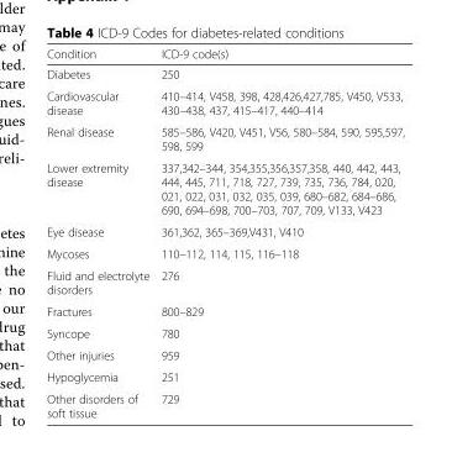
<table><thead><tr><td>Condition</td><td>ICD-9 code(s)</td></tr></thead><tbody><tr><td>Diabetes</td><td>250</td></tr><tr><td>Cardiovascular disease</td><td>410–414, V458, 398, 428,426,427,785, V450, V533, 430–438, 437, 415–417, 440–414</td></tr><tr><td>Renal disease</td><td>585–586, V420, V451, V56, 580–584, 590, 595,597, 598, 599</td></tr><tr><td>Lower extremity disease</td><td>337,342–344, 354,355,356,357,358, 440, 442, 443, 444, 445, 711, 718, 727, 739, 735, 736, 784, 020, 021, 022, 031, 032, 035, 039, 680–682, 684–686, 690, 694–698, 700–703, 707, 709, V133, V423</td></tr><tr><td>Eye disease</td><td>361,362, 365–369,V431, V410</td></tr><tr><td>Mycoses</td><td>110–112, 114, 115, 116–118</td></tr><tr><td>Fluid and electrolyte disorders</td><td>276</td></tr><tr><td>Fractures</td><td>800–829</td></tr><tr><td>Syncope</td><td>780</td></tr><tr><td>Other injuries</td><td>959</td></tr><tr><td>Hypoglycemia</td><td>251</td></tr><tr><td>Other disorders of soft tissue</td><td>729</td></tr></tbody></table>